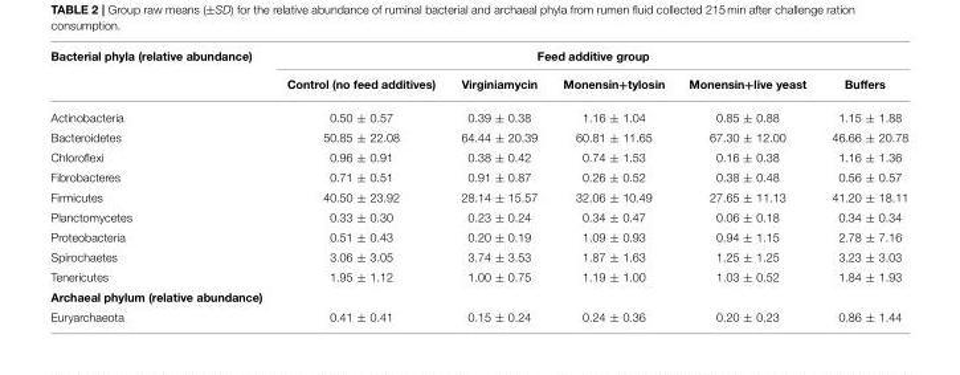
<table><thead><tr><td rowspan="2">Bacterial phyla (relative abundance)</td><td colspan="5">Feed additive group</td></tr><tr><td>Control (no feed additives)</td><td>Virginiamycin</td><td>Monensin+tylosin</td><td>Monensin+live yeast</td><td>Buffers</td></tr></thead><tbody><tr><td>Actinobacteria</td><td>0.50 ± 0.57</td><td>0.39 ± 0.38</td><td>1.16 ± 1.04</td><td>0.85 ± 0.88</td><td>1.15 ± 1.88</td></tr><tr><td>Bacteroidetes</td><td>50.85 ± 22.08</td><td>64.44 ± 20.39</td><td>60.81 ± 11.65</td><td>67.30 ± 12.00</td><td>46.66 ± 20.78</td></tr><tr><td>Chloroflexi</td><td>0.96 ± 0.91</td><td>0.38 ± 0.42</td><td>0.74 ± 1.53</td><td>0.16 ± 0.38</td><td>1.16 ± 1.36</td></tr><tr><td>Fibrobacteres</td><td>0.71 ± 0.51</td><td>0.91 ± 0.87</td><td>0.26 ± 0.52</td><td>0.38 ± 0.48</td><td>0.56 ± 0.57</td></tr><tr><td>Firmicutes</td><td>40.50 ± 23.92</td><td>28.14 ± 15.57</td><td>32.06 ± 10.49</td><td>27.65 ± 11.13</td><td>41.20 ± 18.11</td></tr><tr><td>Planctomycetes</td><td>0.33 ± 0.30</td><td>0.23 ± 0.24</td><td>0.34 ± 0.47</td><td>0.06 ± 0.18</td><td>0.34 ± 0.34</td></tr><tr><td>Proteobacteria</td><td>0.51 ± 0.43</td><td>0.20 ± 0.19</td><td>1.09 ± 0.93</td><td>0.94 ± 1.15</td><td>2.78 ± 7.16</td></tr><tr><td>Spirochaetes</td><td>3.06 ± 3.05</td><td>3.74 ± 3.53</td><td>1.87 ± 1.63</td><td>1.25 ± 1.25</td><td>3.23 ± 3.03</td></tr><tr><td>Tenericutes</td><td>1.95 ± 1.12</td><td>1.00 ± 0.75</td><td>1.19 ± 1.00</td><td>1.03 ± 0.52</td><td>1.84 ± 1.93</td></tr><tr><td colspan="6">Archaeal phylum (relative abundance)</td></tr><tr><td>Euryarchaeota</td><td>0.41 ± 0.41</td><td>0.15 ± 0.24</td><td>0.24 ± 0.36</td><td>0.20 ± 0.23</td><td>0.86 ± 1.44</td></tr></tbody></table>